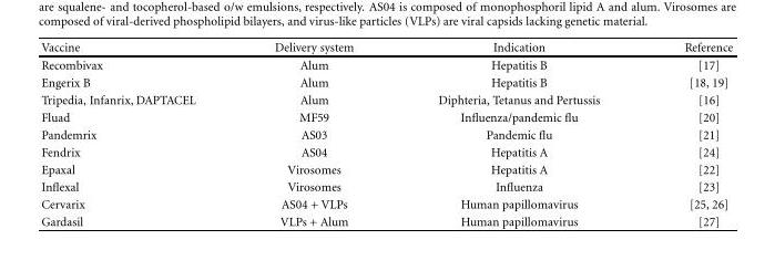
<table><thead><tr><td>Vaccine</td><td>Delivery system</td><td>Indication</td><td>Reference</td></tr></thead><tbody><tr><td>Recombivax</td><td>Alum</td><td>Hepatitis B</td><td>[17]</td></tr><tr><td>Engerix B</td><td>Alum</td><td>Hepatitis B</td><td>[18, 19]</td></tr><tr><td>Tripedia, Infanrix, DAPTACEL</td><td>Alum</td><td>Diphteria, Tetanus and Pertussis</td><td>[16]</td></tr><tr><td>Fluad</td><td>MF59</td><td>Influenza/pandemic flu</td><td>[20]</td></tr><tr><td>Pandemrix</td><td>AS03</td><td>Pandemic flu</td><td>[21]</td></tr><tr><td>Fendrix</td><td>AS04</td><td>Hepatitis A</td><td>[24]</td></tr><tr><td>Epaxal</td><td>Virosomes</td><td>Hepatitis A</td><td>[22]</td></tr><tr><td>Inflexal</td><td>Virosomes</td><td>Influenza</td><td>[23]</td></tr><tr><td>Cervarix</td><td>AS04 + VLPs</td><td>Human papillomavirus</td><td>[25, 26]</td></tr><tr><td>Gardasil</td><td>VLPs + Alum</td><td>Human papillomavirus</td><td>[27]</td></tr></tbody></table>